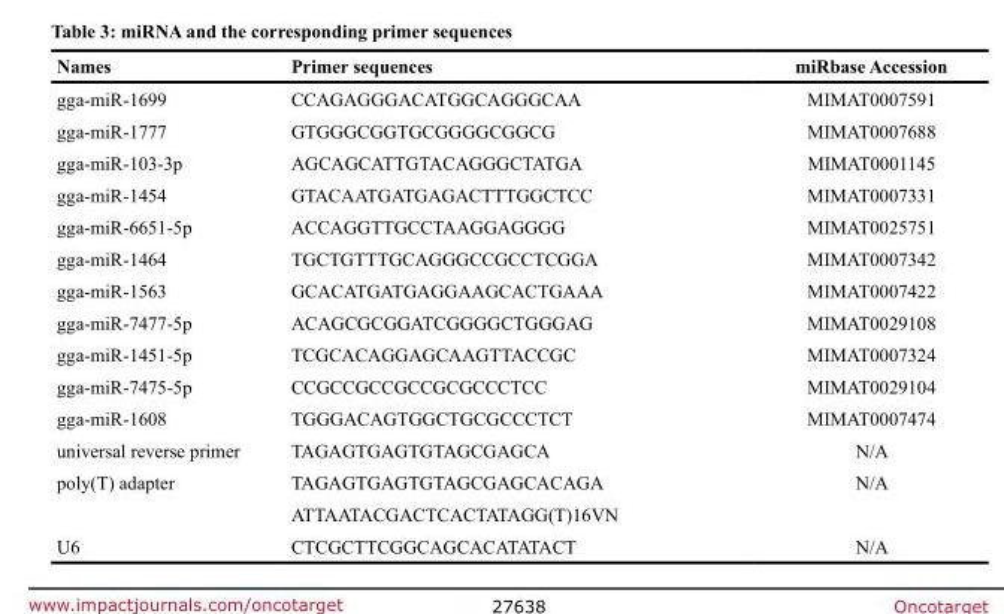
<table><thead><tr><td>Names</td><td>Primer sequences</td><td>miRbase Accession</td></tr></thead><tbody><tr><td>gga-miR-1699</td><td>CCAGAGGGACATGGCAGGGCAA</td><td>MIMAT0007591</td></tr><tr><td>gga-miR-1777</td><td>GTGGGCGGTGCGGGGCGGCG</td><td>MIMAT0007688</td></tr><tr><td>gga-miR-103-3p</td><td>AGCAGCATTGTACAGGGCTATGA</td><td>MIMAT0001145</td></tr><tr><td>gga-miR-1454</td><td>GTACAATGATGAGACTTTGGCTCC</td><td>MIMAT0007331</td></tr><tr><td>gga-miR-6651-5p</td><td>ACCAGGTTGCCTAAGGAGGGG</td><td>MIMAT0025751</td></tr><tr><td>gga-miR-1464</td><td>TGCTGTTTGCAGGGCCGCCTCGGA</td><td>MIMAT0007342</td></tr><tr><td>gga-miR-1563</td><td>GCACATGATGAGGAAGCACTGAAA</td><td>MIMAT0007422</td></tr><tr><td>gga-miR-7477-5p</td><td>ACAGCGCGGATCGGGGCTGGGAG</td><td>MIMAT0029108</td></tr><tr><td>gga-miR-1451-5p</td><td>TCGCACAGGAGCAAGTTACCGC</td><td>MIMAT0007324</td></tr><tr><td>gga-miR-7475-5p</td><td>CCGCCGCCGCCGCGCCCTCC</td><td>MIMAT0029104</td></tr><tr><td>gga-miR-1608</td><td>TGGGACAGTGGCTGCGCCCTCT</td><td>MIMAT0007474</td></tr><tr><td>universal reverse primer</td><td>TAGAGTGAGTGTAGCGAGCA</td><td>N/A</td></tr><tr><td rowspan="2">poly(T) adapter</td><td>TAGAGTGAGTGTAGCGAGCACAGA</td><td>N/A</td></tr><tr><td>ATTAATACGACTCACTATAGG(T)16VN</td><td></td></tr><tr><td>U6</td><td>CTCGCTTCGGCAGCACATATACT</td><td>N/A</td></tr></tbody></table>